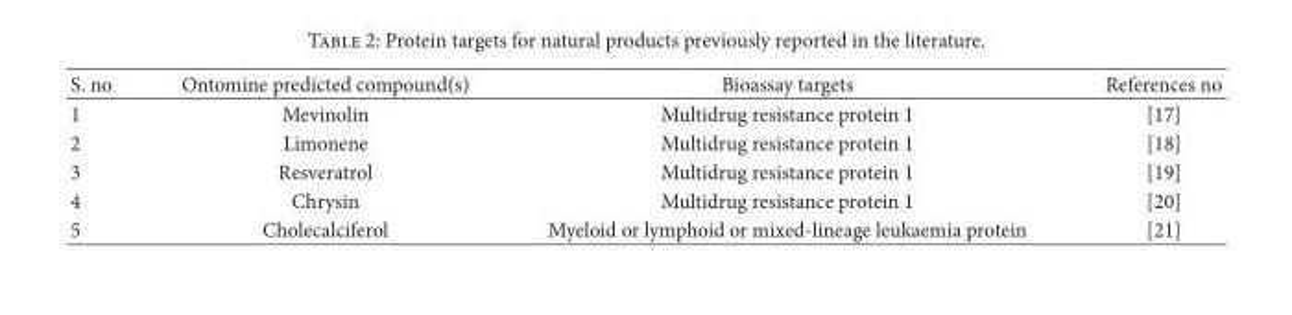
<table><thead><tr><td>S. no</td><td>Ontomine predicted compound(s)</td><td>Bioassay targets</td><td>References no</td></tr></thead><tbody><tr><td>1</td><td>Mevinolin</td><td>Multidrug resistance protein 1</td><td>[17]</td></tr><tr><td>2</td><td>Limonene</td><td>Multidrug resistance protein 1</td><td>[18]</td></tr><tr><td>3</td><td>Resveratrol</td><td>Multidrug resistance protein 1</td><td>[19]</td></tr><tr><td>4</td><td>Chrysin</td><td>Multidrug resistance protein 1</td><td>[20]</td></tr><tr><td>5</td><td>Cholecalciferol</td><td>Myeloid or lymphoid or mixed-lineage leukaemia protein</td><td>[21]</td></tr></tbody></table>